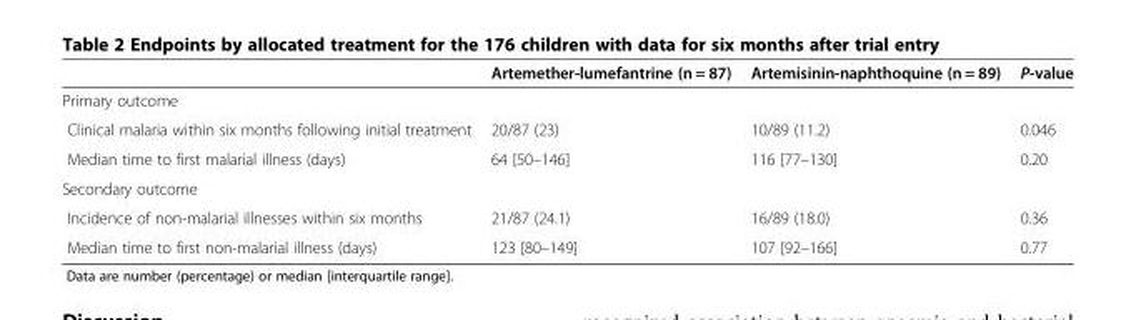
<table><thead><tr><td></td><td>Artemether-lumefantrine (n = 87)</td><td>Artemisinin-naphthoquine (n = 89)</td><td>P-value</td></tr></thead><tbody><tr><td colspan="4">Primary outcome</td></tr><tr><td>Clinical malaria within six months following initial treatment</td><td>20/87 (23)</td><td>10/89 (11.2)</td><td>0.046</td></tr><tr><td>Median time to first malarial illness (days)</td><td>64 [50–146]</td><td>116 [77–130]</td><td>0.20</td></tr><tr><td colspan="4">Secondary outcome</td></tr><tr><td>Incidence of non-malarial illnesses within six months</td><td>21/87 (24.1)</td><td>16/89 (18.0)</td><td>0.36</td></tr><tr><td>Median time to first non-malarial illness (days)</td><td>123 [80–149]</td><td>107 [92–166]</td><td>0.77</td></tr></tbody></table>